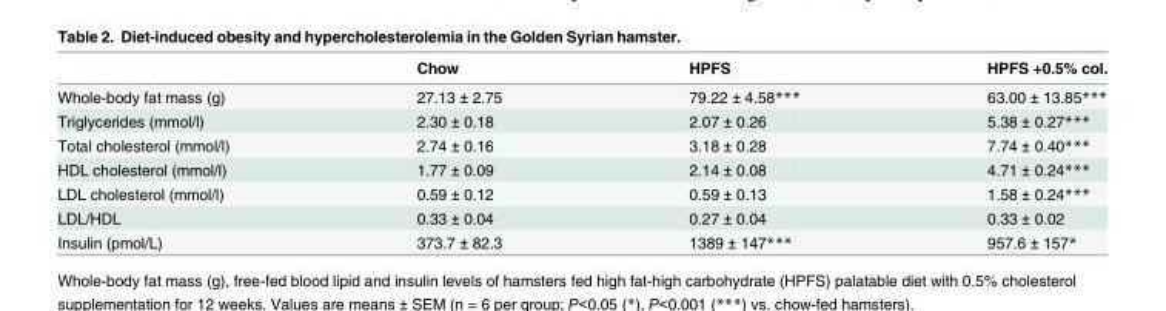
<table><thead><tr><td></td><td>Chow</td><td>HPFS</td><td>HPFS +0.5% col.</td></tr></thead><tbody><tr><td>Whole-body fat mass (g)</td><td>27.13 ± 2.75</td><td>79.22 ± 4.58***</td><td>63.00 ± 13.85***</td></tr><tr><td>Triglycerides (mmol/l)</td><td>2.30 ± 0.18</td><td>2.07 ± 0.26</td><td>5.38 ± 0.27***</td></tr><tr><td>Total cholesterol (mmol/l)</td><td>2.74 ± 0.16</td><td>3.18 ± 0.28</td><td>7.74 ± 0.40***</td></tr><tr><td>HDL cholesterol (mmol/l)</td><td>1.77 ± 0.09</td><td>2.14 ± 0.08</td><td>4.71 ± 0.24***</td></tr><tr><td>LDL cholesterol (mmol/l)</td><td>0.59 ± 0.12</td><td>0.59 ± 0.13</td><td>1.58 ± 0.24***</td></tr><tr><td>LDL/HDL</td><td>0.33 ± 0.04</td><td>0.27 ± 0.04</td><td>0.33 ± 0.02</td></tr><tr><td>Insulin (pmol/L)</td><td>373.7 ± 82.3</td><td>1389 ± 147***</td><td>957.6 ± 157*</td></tr></tbody></table>